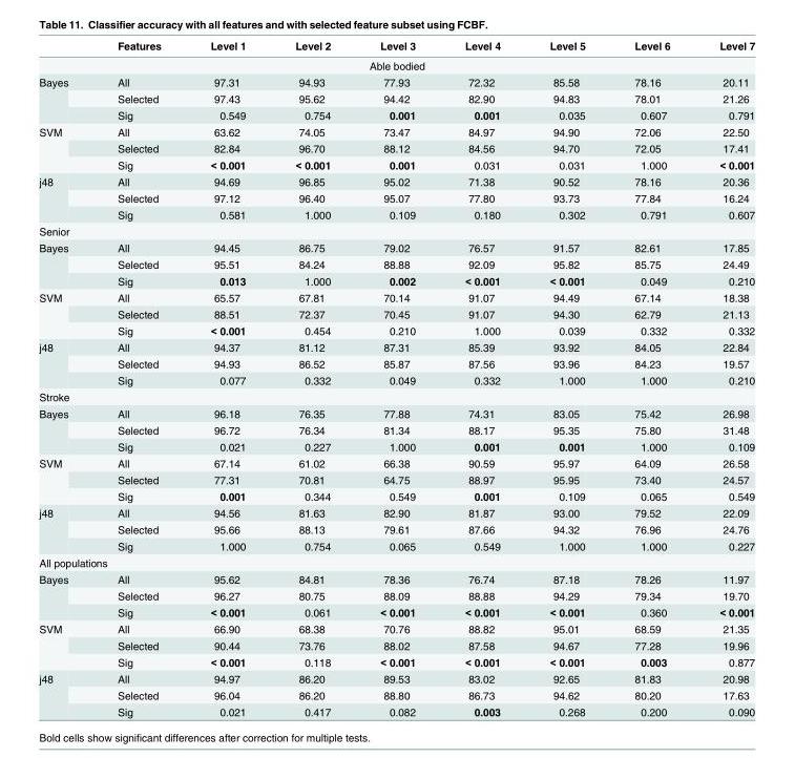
<table><thead><tr><td></td><td>Features</td><td>Level 1</td><td>Level 2</td><td>Level 3</td><td>Level 4</td><td>Level 5</td><td>Level 6</td><td>Level 7</td></tr></thead><tbody><tr><td colspan="9">Able bodied</td></tr><tr><td rowspan="3">Bayes</td><td>All</td><td>97.31</td><td>94.93</td><td>77.93</td><td>72.32</td><td>85.58</td><td>78.16</td><td>20.11</td></tr><tr><td>Selected</td><td>97.43</td><td>95.62</td><td>94.42</td><td>82.90</td><td>94.83</td><td>78.01</td><td>21.26</td></tr><tr><td>Sig</td><td>0.549</td><td>0.754</td><td>0.001</td><td>0.001</td><td>0.035</td><td>0.607</td><td>0.791</td></tr><tr><td rowspan="3">SVM</td><td>All</td><td>63.62</td><td>74.05</td><td>73.47</td><td>84.97</td><td>94.90</td><td>72.06</td><td>22.50</td></tr><tr><td>Selected</td><td>82.84</td><td>96.70</td><td>88.12</td><td>84.56</td><td>94.70</td><td>72.05</td><td>17.41</td></tr><tr><td>Sig</td><td>&lt; 0.001</td><td>&lt; 0.001</td><td>0.001</td><td>0.031</td><td>0.031</td><td>1.000</td><td>&lt; 0.001</td></tr><tr><td rowspan="3">j48</td><td>All</td><td>94.69</td><td>96.85</td><td>95.02</td><td>71.38</td><td>90.52</td><td>78.16</td><td>20.36</td></tr><tr><td>Selected</td><td>97.12</td><td>96.40</td><td>95.07</td><td>77.80</td><td>93.73</td><td>77.84</td><td>16.24</td></tr><tr><td>Sig</td><td>0.581</td><td>1.000</td><td>0.109</td><td>0.180</td><td>0.302</td><td>0.791</td><td>0.607</td></tr><tr><td colspan="9">Senior</td></tr><tr><td rowspan="3">Bayes</td><td>All</td><td>94.45</td><td>86.75</td><td>79.02</td><td>76.57</td><td>91.57</td><td>82.61</td><td>17.85</td></tr><tr><td>Selected</td><td>95.51</td><td>84.24</td><td>88.88</td><td>92.09</td><td>95.82</td><td>85.75</td><td>24.49</td></tr><tr><td>Sig</td><td>0.013</td><td>1.000</td><td>0.002</td><td>&lt; 0.001</td><td>&lt; 0.001</td><td>0.049</td><td>0.210</td></tr><tr><td rowspan="3">SVM</td><td>All</td><td>65.57</td><td>67.81</td><td>70.14</td><td>91.07</td><td>94.49</td><td>67.14</td><td>18.38</td></tr><tr><td>Selected</td><td>88.51</td><td>72.37</td><td>70.45</td><td>91.07</td><td>94.30</td><td>62.79</td><td>21.13</td></tr><tr><td>Sig</td><td>&lt; 0.001</td><td>0.454</td><td>0.210</td><td>1.000</td><td>0.039</td><td>0.332</td><td>0.332</td></tr><tr><td rowspan="3">j48</td><td>All</td><td>94.37</td><td>81.12</td><td>87.31</td><td>85.39</td><td>93.92</td><td>84.05</td><td>22.84</td></tr><tr><td>Selected</td><td>94.93</td><td>86.52</td><td>85.87</td><td>87.56</td><td>93.96</td><td>84.23</td><td>19.57</td></tr><tr><td>Sig</td><td>0.077</td><td>0.332</td><td>0.049</td><td>0.332</td><td>1.000</td><td>1.000</td><td>0.210</td></tr><tr><td colspan="9">Stroke</td></tr><tr><td rowspan="3">Bayes</td><td>All</td><td>96.18</td><td>76.35</td><td>77.88</td><td>74.31</td><td>83.05</td><td>75.42</td><td>26.98</td></tr><tr><td>Selected</td><td>96.72</td><td>76.34</td><td>81.34</td><td>88.17</td><td>95.35</td><td>75.80</td><td>31.48</td></tr><tr><td>Sig</td><td>0.021</td><td>0.227</td><td>1.000</td><td>0.001</td><td>0.001</td><td>1.000</td><td>0.109</td></tr><tr><td rowspan="3">SVM</td><td>All</td><td>67.14</td><td>61.02</td><td>66.38</td><td>90.59</td><td>95.97</td><td>64.09</td><td>26.58</td></tr><tr><td>Selected</td><td>77.31</td><td>70.81</td><td>64.75</td><td>88.97</td><td>95.95</td><td>73.40</td><td>24.57</td></tr><tr><td>Sig</td><td>0.001</td><td>0.344</td><td>0.549</td><td>0.001</td><td>0.109</td><td>0.065</td><td>0.549</td></tr><tr><td rowspan="3">j48</td><td>All</td><td>94.56</td><td>81.63</td><td>82.90</td><td>81.87</td><td>93.00</td><td>79.52</td><td>22.09</td></tr><tr><td>Selected</td><td>95.66</td><td>88.13</td><td>79.61</td><td>87.66</td><td>94.32</td><td>76.96</td><td>24.76</td></tr><tr><td>Sig</td><td>1.000</td><td>0.754</td><td>0.065</td><td>0.549</td><td>1.000</td><td>1.000</td><td>0.227</td></tr><tr><td colspan="9">All populations</td></tr><tr><td rowspan="3">Bayes</td><td>All</td><td>95.62</td><td>84.81</td><td>78.36</td><td>76.74</td><td>87.18</td><td>78.26</td><td>11.97</td></tr><tr><td>Selected</td><td>96.27</td><td>80.75</td><td>88.09</td><td>88.88</td><td>94.29</td><td>79.34</td><td>19.70</td></tr><tr><td>Sig</td><td>&lt; 0.001</td><td>0.061</td><td>&lt; 0.001</td><td>&lt; 0.001</td><td>&lt; 0.001</td><td>0.360</td><td>&lt; 0.001</td></tr><tr><td rowspan="3">SVM</td><td>All</td><td>66.90</td><td>68.38</td><td>70.76</td><td>88.82</td><td>95.01</td><td>68.59</td><td>21.35</td></tr><tr><td>Selected</td><td>90.44</td><td>73.76</td><td>88.02</td><td>87.58</td><td>94.67</td><td>77.28</td><td>19.96</td></tr><tr><td>Sig</td><td>&lt; 0.001</td><td>0.118</td><td>&lt; 0.001</td><td>&lt; 0.001</td><td>&lt; 0.001</td><td>0.003</td><td>0.877</td></tr><tr><td rowspan="3">j48</td><td>All</td><td>94.97</td><td>86.20</td><td>89.53</td><td>83.02</td><td>92.65</td><td>81.83</td><td>20.98</td></tr><tr><td>Selected</td><td>96.04</td><td>86.20</td><td>88.80</td><td>86.73</td><td>94.62</td><td>80.20</td><td>17.63</td></tr><tr><td>Sig</td><td>0.021</td><td>0.417</td><td>0.082</td><td>0.003</td><td>0.268</td><td>0.200</td><td>0.090</td></tr></tbody></table>